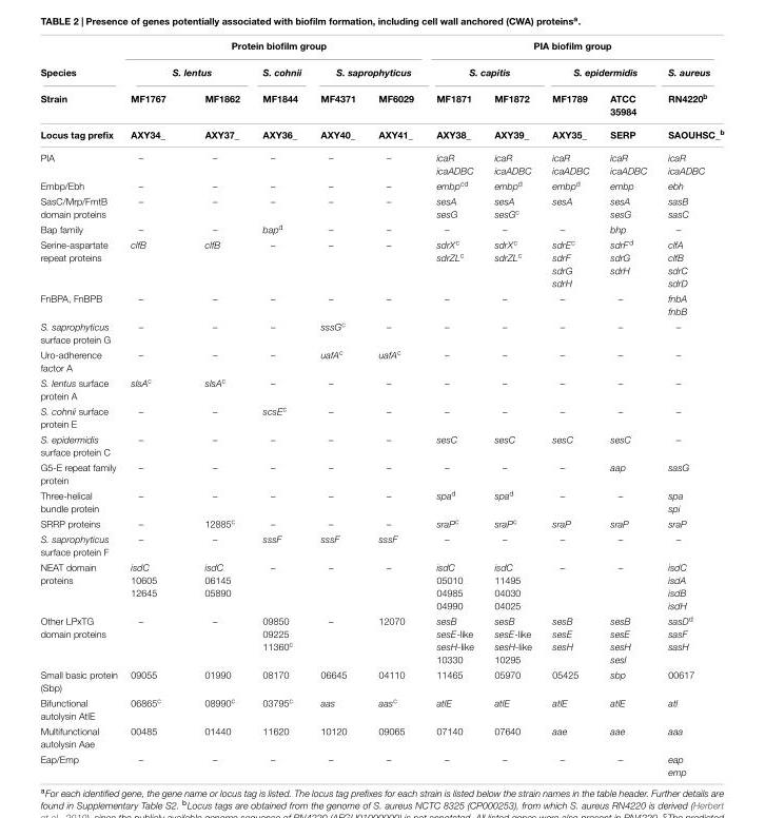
<table><thead><tr><td rowspan="3">Species Strain</td><td colspan="5">Protein biofilm group</td><td colspan="5">PIA biofilm group</td></tr><tr><td colspan="2">S. lentus</td><td rowspan="2">S. cohnii MF1844</td><td colspan="2">S. saprophyticus</td><td colspan="2">S. capitis</td><td colspan="2">S. epidermidis</td><td rowspan="2">S. aureus RN4220<sup>b</sup></td></tr><tr><td>MF1767</td><td>MF1862</td><td>MF4371</td><td>MF6029</td><td>MF1871</td><td>MF1872</td><td>MF1789</td><td>ATCC 35984</td></tr></thead><tbody><tr><td>Locus tag prefix</td><td>AXY34_</td><td>AXY37_</td><td>AXY36_</td><td>AXY40_</td><td>AXY41_</td><td>AXY38_</td><td>AXY39_</td><td>AXY35_</td><td>SERP</td><td>SAOUHSC_<sup>b</sup></td></tr><tr><td>PIA</td><td>–</td><td>–</td><td>–</td><td>–</td><td>–</td><td>icaR icaADBC</td><td>icaR icaADBC</td><td>icaR icaADBC</td><td>icaR icaADBC</td><td>icaR icaADBC</td></tr><tr><td>Embp/Ebh</td><td>–</td><td>–</td><td>–</td><td>–</td><td>–</td><td>embp<sup>cd</sup></td><td>embp<sup>d</sup></td><td>embp<sup>d</sup></td><td>embp</td><td>ebh</td></tr><tr><td>SasC/Mrp/FmtB domain proteins</td><td>–</td><td>–</td><td>–</td><td>–</td><td>–</td><td>sesA sesG</td><td>sesA sesG<sup>c</sup></td><td>sesA</td><td>sesA sesG</td><td>sasB sasC</td></tr><tr><td>Bap family</td><td>–</td><td>–</td><td>bap<sup>d</sup></td><td>–</td><td>–</td><td>–</td><td>–</td><td>–</td><td>bhp</td><td>–</td></tr><tr><td>Serine-aspartate repeat proteins</td><td>clfB</td><td>clfB</td><td>–</td><td>–</td><td>–</td><td>sdrX<sup>c</sup> sdrZL<sup>c</sup></td><td>sdrX<sup>c</sup> sdrZL<sup>c</sup></td><td>sdrE<sup>c</sup> sdrF sdrG sdrH</td><td>sdrF<sup>d</sup> sdrG sdrH</td><td>clfA clfB sdrC sdrD</td></tr><tr><td>FnBPA, FnBPB</td><td>–</td><td>–</td><td>–</td><td>–</td><td>–</td><td>–</td><td>–</td><td>–</td><td>–</td><td>fnbA fnbB</td></tr><tr><td>S. saprophyticus surface protein G</td><td>–</td><td>–</td><td>–</td><td>sssG<sup>c</sup></td><td>–</td><td>–</td><td>–</td><td>–</td><td>–</td><td>–</td></tr><tr><td>Uro-adherence factor A</td><td>–</td><td>–</td><td>–</td><td>uafA<sup>c</sup></td><td>uafA<sup>c</sup></td><td>–</td><td>–</td><td>–</td><td>–</td><td>–</td></tr><tr><td>S. lentus surface protein A</td><td>slsA<sup>c</sup></td><td>slsA<sup>c</sup></td><td>–</td><td>–</td><td>–</td><td>–</td><td>–</td><td>–</td><td>–</td><td>–</td></tr><tr><td>S. cohnii surface protein E</td><td>–</td><td>–</td><td>scsE<sup>c</sup></td><td>–</td><td>–</td><td>–</td><td>–</td><td>–</td><td>–</td><td>–</td></tr><tr><td>S. epidermidis surface protein C</td><td>–</td><td>–</td><td>–</td><td>–</td><td>–</td><td>sesC</td><td>sesC</td><td>sesC</td><td>sesC</td><td>–</td></tr><tr><td>G5-E repeat family protein</td><td>–</td><td>–</td><td>–</td><td>–</td><td>–</td><td>–</td><td>–</td><td>–</td><td>aap</td><td>sasG</td></tr><tr><td>Three-helical bundle protein</td><td>–</td><td>–</td><td>–</td><td>–</td><td>–</td><td>spa<sup>d</sup></td><td>spa<sup>d</sup></td><td>–</td><td>–</td><td>spa spi</td></tr><tr><td>SRRP proteins</td><td>–</td><td>12885<sup>c</sup></td><td>–</td><td>–</td><td>–</td><td>sraP<sup>c</sup></td><td>sraP<sup>c</sup></td><td>sraP</td><td>sraP</td><td>sraP</td></tr><tr><td>S. saprophyticus surface protein F</td><td>–</td><td>–</td><td>sssF</td><td>sssF</td><td>sssF</td><td>–</td><td>–</td><td>–</td><td>–</td><td>–</td></tr><tr><td>NEAT domain proteins</td><td>isdC 10605 12645</td><td>isdC 06145 05890</td><td>–</td><td>–</td><td>–</td><td>isdC 05010 04985 04990</td><td>isdC 11495 04030 04025</td><td>–</td><td>–</td><td>isdC isdA isdB isdH</td></tr><tr><td>Other LPxTG domain proteins</td><td>–</td><td>–</td><td>09850 09225 11360<sup>c</sup></td><td>–</td><td>12070</td><td>sesB sesE-like sesH-like 10330</td><td>sesB sesE-like sesH-like 10295</td><td>sesB sesE sesH</td><td>sesB sesE sesH sesI</td><td>sasD<sup>d</sup> sasF sasH</td></tr><tr><td>Small basic protein (Sbp)</td><td>09055</td><td>01990</td><td>08170</td><td>06645</td><td>04110</td><td>11465</td><td>05970</td><td>05425</td><td>sbp</td><td>00617</td></tr><tr><td>Bifunctional autolysin AtlE</td><td>06865<sup>c</sup></td><td>08990<sup>c</sup></td><td>03795<sup>c</sup></td><td>aas</td><td>aas<sup>c</sup></td><td>atlE</td><td>atlE</td><td>atlE</td><td>atlE</td><td>atl</td></tr><tr><td>Multifunctional autolysin Aae</td><td>00485</td><td>01440</td><td>11620</td><td>10120</td><td>09065</td><td>07140</td><td>07640</td><td>aae</td><td>aae</td><td>aaa</td></tr><tr><td>Eap/Emp</td><td>–</td><td>–</td><td>–</td><td>–</td><td>–</td><td>–</td><td>–</td><td>–</td><td>–</td><td>eap emp</td></tr></tbody></table>